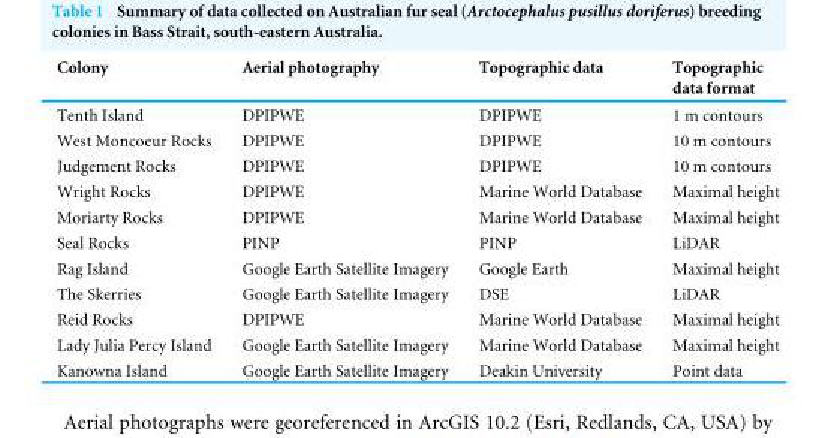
<table><thead><tr><td>Colony</td><td>Aerial photography</td><td>Topographic data</td><td>Topographic data format</td></tr></thead><tbody><tr><td>Tenth Island</td><td>DPIPWE</td><td>DPIPWE</td><td>1 m contours</td></tr><tr><td>West Moncoeur Rocks</td><td>DPIPWE</td><td>DPIPWE</td><td>10 m contours</td></tr><tr><td>Judgement Rocks</td><td>DPIPWE</td><td>DPIPWE</td><td>10 m contours</td></tr><tr><td>Wright Rocks</td><td>DPIPWE</td><td>Marine World Database</td><td>Maximal height</td></tr><tr><td>Moriarty Rocks</td><td>DPIPWE</td><td>Marine World Database</td><td>Maximal height</td></tr><tr><td>Seal Rocks</td><td>PINP</td><td>PINP</td><td>LiDAR</td></tr><tr><td>Rag Island</td><td>Google Earth Satellite Imagery</td><td>Google Earth</td><td>Maximal height</td></tr><tr><td>The Skerries</td><td>Google Earth Satellite Imagery</td><td>DSE</td><td>LiDAR</td></tr><tr><td>Reid Rocks</td><td>DPIPWE</td><td>Marine World Database</td><td>Maximal height</td></tr><tr><td>Lady Julia Percy Island</td><td>Google Earth Satellite Imagery</td><td>Marine World Database</td><td>Maximal height</td></tr><tr><td>Kanowna Island</td><td>Google Earth Satellite Imagery</td><td>Deakin University</td><td>Point data</td></tr></tbody></table>